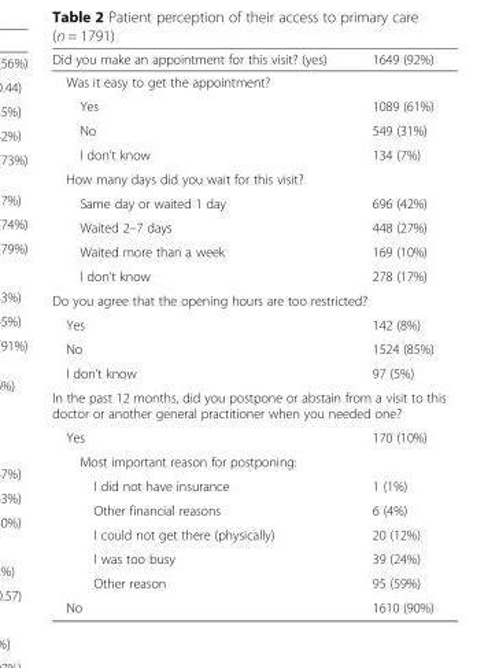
<table><thead><tr><td>Did you make an appointment for this visit? (yes)</td><td>1649 (92%)</td></tr></thead><tbody><tr><td colspan="2">Was it easy to get the appointment?</td></tr><tr><td>Yes</td><td>1089 (61%)</td></tr><tr><td>No</td><td>549 (31%)</td></tr><tr><td>I don’t know</td><td>134 (7%)</td></tr><tr><td colspan="2">How many days did you wait for this visit?</td></tr><tr><td>Same day or waited 1 day</td><td>696 (42%)</td></tr><tr><td>Waited 2–7 days</td><td>448 (27%)</td></tr><tr><td>Waited more than a week</td><td>169 (10%)</td></tr><tr><td>I don’t know</td><td>278 (17%)</td></tr><tr><td colspan="2">Do you agree that the opening hours are too restricted?</td></tr><tr><td>Yes</td><td>142 (8%)</td></tr><tr><td>No</td><td>1524 (85%)</td></tr><tr><td>I don’t know</td><td>97 (5%)</td></tr><tr><td colspan="2">In the past 12 months, did you postpone or abstain from a visit to this doctor or another general practitioner when you needed one?</td></tr><tr><td>Yes</td><td>170 (10%)</td></tr><tr><td colspan="2">Most important reason for postponing:</td></tr><tr><td>I did not have insurance</td><td>1 (1%)</td></tr><tr><td>Other financial reasons</td><td>6 (4%)</td></tr><tr><td>I could not get there (physically)</td><td>20 (12%)</td></tr><tr><td>I was too busy</td><td>39 (24%)</td></tr><tr><td>Other reason</td><td>95 (59%)</td></tr><tr><td>No</td><td>1610 (90%)</td></tr></tbody></table>